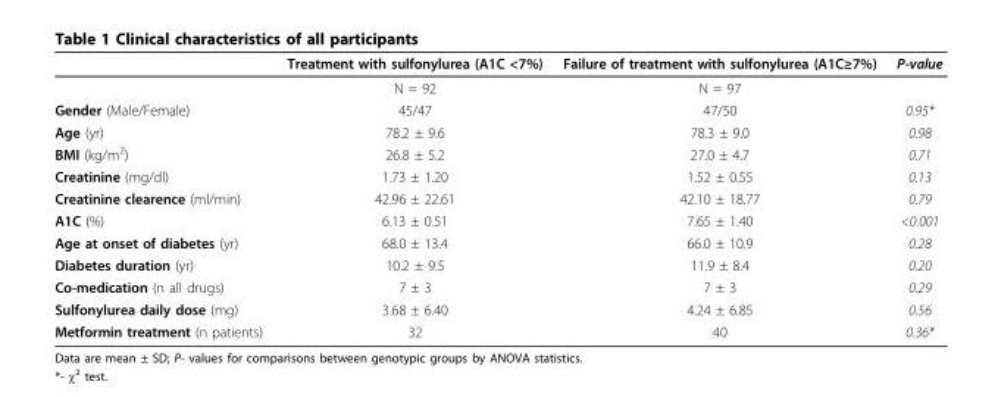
<table><thead><tr><td></td><td>Treatment with sulfonylurea (A1C &lt;7%)</td><td>Failure of treatment with sulfonylurea (A1C≥7%)</td><td>P-value</td></tr></thead><tbody><tr><td></td><td>N = 92</td><td>N = 97</td><td></td></tr><tr><td>Gender (Male/Female)</td><td>45/47</td><td>47/50</td><td>0.95*</td></tr><tr><td>Age (yr)</td><td>78.2 ± 9.6</td><td>78.3 ± 9.0</td><td>0.98</td></tr><tr><td>BMI (kg/m<sup>2</sup>)</td><td>26.8 ± 5.2</td><td>27.0 ± 4.7</td><td>0.71</td></tr><tr><td>Creatinine (mg/dl)</td><td>1.73 ± 1.20</td><td>1.52 ± 0.55</td><td>0.13</td></tr><tr><td>Creatinine clearence (ml/min)</td><td>42.96 ± 22.61</td><td>42.10 ± 18.77</td><td>0.79</td></tr><tr><td>A1C (%)</td><td>6.13 ± 0.51</td><td>7.65 ± 1.40</td><td>&lt;0.001</td></tr><tr><td>Age at onset of diabetes (yr)</td><td>68.0 ± 13.4</td><td>66.0 ± 10.9</td><td>0.28</td></tr><tr><td>Diabetes duration (yr)</td><td>10.2 ± 9.5</td><td>11.9 ± 8.4</td><td>0.20</td></tr><tr><td>Co-medication (n all drugs)</td><td>7 ± 3</td><td>7 ± 3</td><td>0.29</td></tr><tr><td>Sulfonylurea daily dose (mg)</td><td>3.68 ± 6.40</td><td>4.24 ± 6.85</td><td>0.56</td></tr><tr><td>Metformin treatment (n patients)</td><td>32</td><td>40</td><td>0.36*</td></tr></tbody></table>